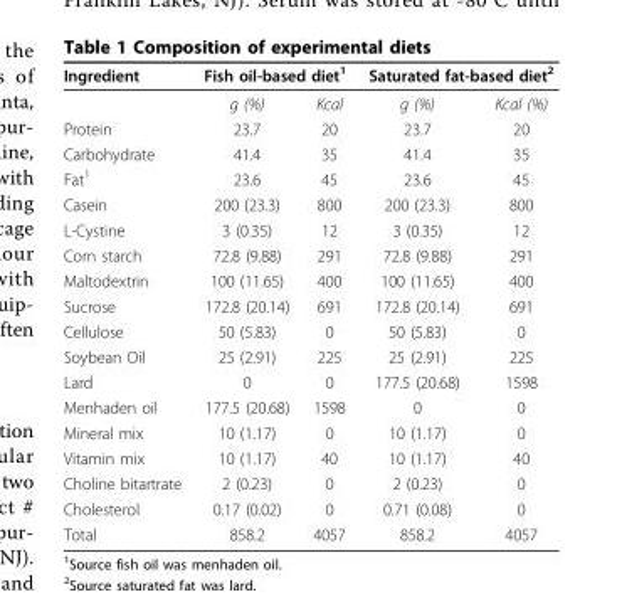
<table><thead><tr><td rowspan="2">Ingredient</td><td colspan="2">Fish oil-based diet<sup>1</sup></td><td colspan="2">Saturated fat-based diet<sup>2</sup></td></tr><tr><td>g (%)</td><td>Kcal</td><td>g (%)</td><td>Kcal (%)</td></tr></thead><tbody><tr><td>Protein</td><td>23.7</td><td>20</td><td>23.7</td><td>20</td></tr><tr><td>Carbohydrate</td><td>41.4</td><td>35</td><td>41.4</td><td>35</td></tr><tr><td>Fat<sup>1</sup></td><td>23.6</td><td>45</td><td>23.6</td><td>45</td></tr><tr><td>Casein</td><td>200 (23.3)</td><td>800</td><td>200 (23.3)</td><td>800</td></tr><tr><td>L-Cystine</td><td>3 (0.35)</td><td>12</td><td>3 (0.35)</td><td>12</td></tr><tr><td>Corn starch</td><td>72.8 (9.88)</td><td>291</td><td>72.8 (9.88)</td><td>291</td></tr><tr><td>Maltodextrin</td><td>100 (11.65)</td><td>400</td><td>100 (11.65)</td><td>400</td></tr><tr><td>Sucrose</td><td>172.8 (20.14)</td><td>691</td><td>172.8 (20.14)</td><td>691</td></tr><tr><td>Cellulose</td><td>50 (5.83)</td><td>0</td><td>50 (5.83)</td><td>0</td></tr><tr><td>Soybean Oil</td><td>25 (2.91)</td><td>225</td><td>25 (2.91)</td><td>225</td></tr><tr><td>Lard</td><td>0</td><td>0</td><td>177.5 (20.68)</td><td>1598</td></tr><tr><td>Menhaden oil</td><td>177.5 (20.68)</td><td>1598</td><td>0</td><td>0</td></tr><tr><td>Mineral mix</td><td>10 (1.17)</td><td>0</td><td>10 (1.17)</td><td>0</td></tr><tr><td>Vitamin mix</td><td>10 (1.17)</td><td>40</td><td>10 (1.17)</td><td>40</td></tr><tr><td>Choline bitartrate</td><td>2 (0.23)</td><td>0</td><td>2 (0.23)</td><td>0</td></tr><tr><td>Cholesterol</td><td>0.17 (0.02)</td><td>0</td><td>0.71 (0.08)</td><td>0</td></tr><tr><td>Total</td><td>858.2</td><td>4057</td><td>858.2</td><td>4057</td></tr></tbody></table>